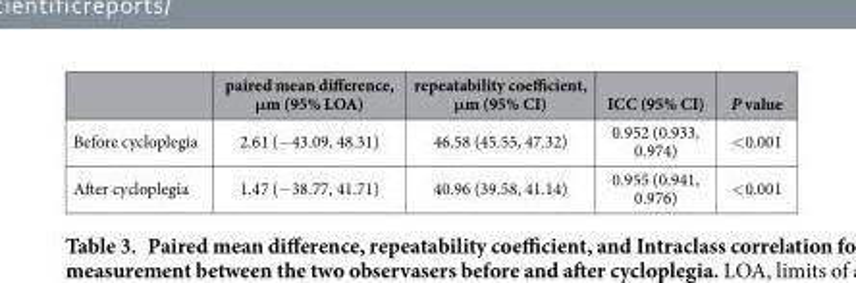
<table><thead><tr><td></td><td>paired mean difference, μm (95% LOA)</td><td>repeatability coefficient, μm (95% CI)</td><td>ICC (95% CI)</td><td>P value</td></tr></thead><tbody><tr><td>Before cycloplegia</td><td>2.61 (− 43.09, 48.31)</td><td>46.58 (45.55, 47.32)</td><td>0.952 (0.933, 0.974)</td><td>&lt; 0.001</td></tr><tr><td>After cycloplegia</td><td>1.47 (− 38.77, 41.71)</td><td>40.96 (39.58, 41.14)</td><td>0.955 (0.941, 0.976)</td><td>&lt; 0.001</td></tr></tbody></table>